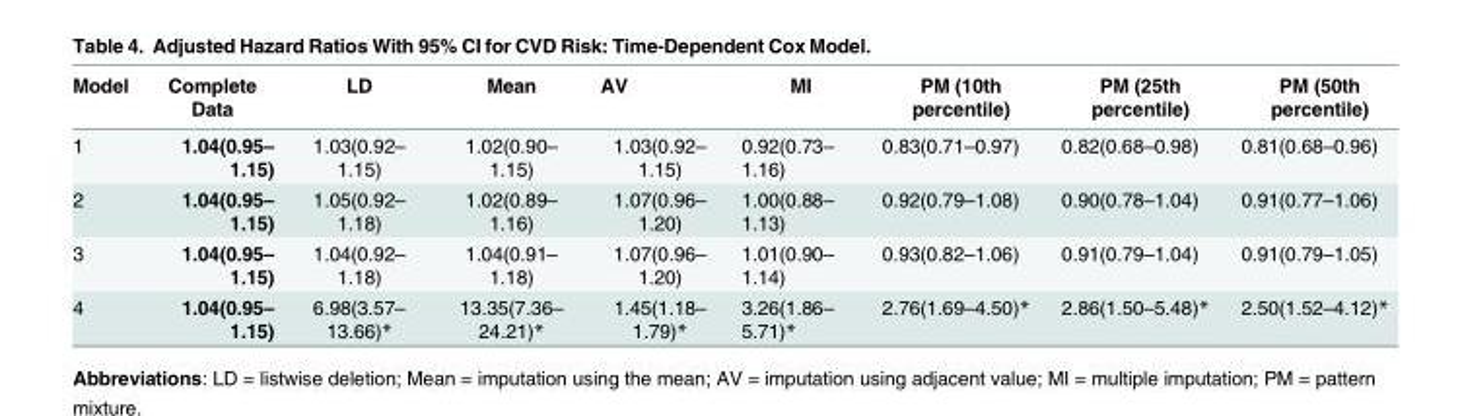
<table><thead><tr><td>Model</td><td>Complete Data</td><td>LD</td><td>Mean</td><td>AV</td><td>MI</td><td>PM (10th percentile)</td><td>PM (25th percentile)</td><td>PM (50th percentile)</td></tr></thead><tbody><tr><td>1</td><td>1.04(0.95– 1.15)</td><td>1.03(0.92– 1.15)</td><td>1.02(0.90– 1.15)</td><td>1.03(0.92– 1.15)</td><td>0.92(0.73– 1.16)</td><td>0.83(0.71–0.97)</td><td>0.82(0.68–0.98)</td><td>0.81(0.68–0.96)</td></tr><tr><td>2</td><td>1.04(0.95– 1.15)</td><td>1.05(0.92– 1.18)</td><td>1.02(0.89– 1.16)</td><td>1.07(0.96– 1.20)</td><td>1.00(0.88– 1.13)</td><td>0.92(0.79–1.08)</td><td>0.90(0.78–1.04)</td><td>0.91(0.77–1.06)</td></tr><tr><td>3</td><td>1.04(0.95– 1.15)</td><td>1.04(0.92– 1.18)</td><td>1.04(0.91– 1.18)</td><td>1.07(0.96– 1.20)</td><td>1.01(0.90– 1.14)</td><td>0.93(0.82–1.06)</td><td>0.91(0.79–1.04)</td><td>0.91(0.79–1.05)</td></tr><tr><td>4</td><td>1.04(0.95– 1.15)</td><td>6.98(3.57– 13.66)*</td><td>13.35(7.36– 24.21)*</td><td>1.45(1.18– 1.79)*</td><td>3.26(1.86– 5.71)*</td><td>2.76(1.69–4.50)*</td><td>2.86(1.50–5.48)*</td><td>2.50(1.52–4.12)*</td></tr></tbody></table>